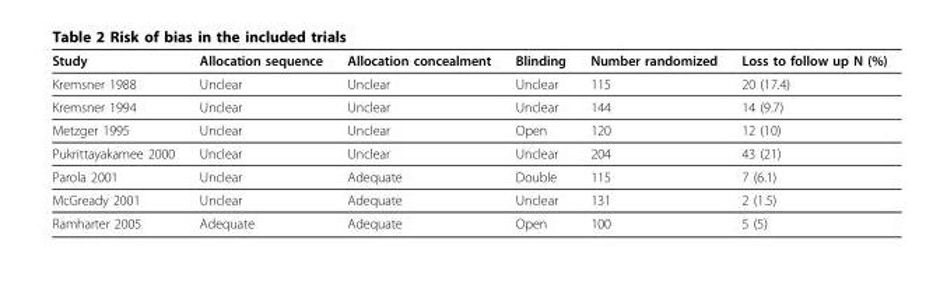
<table><thead><tr><td>Study</td><td>Allocation sequence</td><td>Allocation concealment</td><td>Blinding</td><td>Number randomized</td><td>Loss to follow up N (%)</td></tr></thead><tbody><tr><td>Kremsner 1988</td><td>Unclear</td><td>Unclear</td><td>Unclear</td><td>115</td><td>20 (17.4)</td></tr><tr><td>Kremsner 1994</td><td>Unclear</td><td>Unclear</td><td>Unclear</td><td>144</td><td>14 (9.7)</td></tr><tr><td>Metzger 1995</td><td>Unclear</td><td>Unclear</td><td>Open</td><td>120</td><td>12 (10)</td></tr><tr><td>Pukrittayakamee 2000</td><td>Unclear</td><td>Unclear</td><td>Unclear</td><td>204</td><td>43 (21)</td></tr><tr><td>Parola 2001</td><td>Unclear</td><td>Adequate</td><td>Double</td><td>115</td><td>7 (6.1)</td></tr><tr><td>McGready 2001</td><td>Unclear</td><td>Adequate</td><td>Unclear</td><td>131</td><td>2 (1.5)</td></tr><tr><td>Ramharter 2005</td><td>Adequate</td><td>Adequate</td><td>Open</td><td>100</td><td>5 (5)</td></tr></tbody></table>